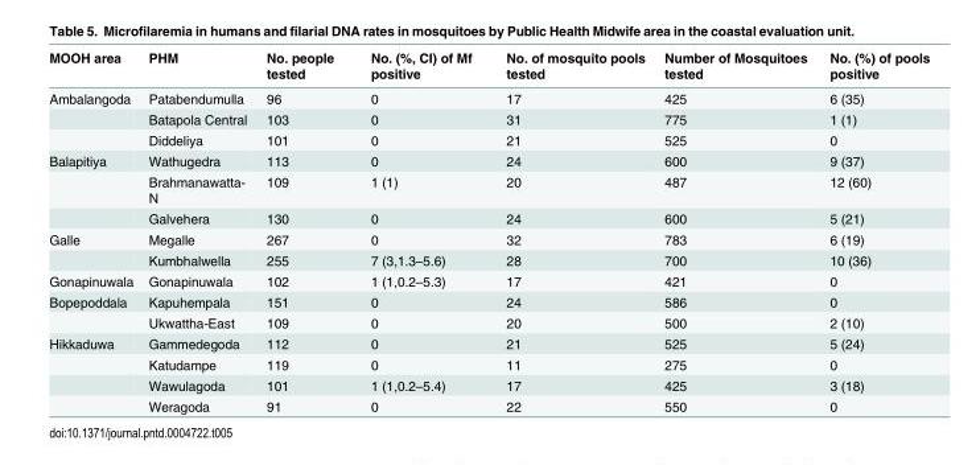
<table><thead><tr><td>MOOH area</td><td>PHM</td><td>No. people tested</td><td>No. (%, CI) of Mf positive</td><td>No. of mosquito pools tested</td><td>Number of Mosquitoes tested</td><td>No. (%) of pools positive</td></tr></thead><tbody><tr><td rowspan="3">Ambalangoda</td><td>Patabendumulla</td><td>96</td><td>0</td><td>17</td><td>425</td><td>6 (35)</td></tr><tr><td>Batapola Central</td><td>103</td><td>0</td><td>31</td><td>775</td><td>1 (1)</td></tr><tr><td>Diddeliya</td><td>101</td><td>0</td><td>21</td><td>525</td><td>0</td></tr><tr><td rowspan="3">Balapitiya</td><td>Wathugedra</td><td>113</td><td>0</td><td>24</td><td>600</td><td>9 (37)</td></tr><tr><td>Brahmanawatta- N</td><td>109</td><td>1 (1)</td><td>20</td><td>487</td><td>12 (60)</td></tr><tr><td>Galvehera</td><td>130</td><td>0</td><td>24</td><td>600</td><td>5 (21)</td></tr><tr><td rowspan="2">Galle</td><td>Megalle</td><td>267</td><td>0</td><td>32</td><td>783</td><td>6 (19)</td></tr><tr><td>Kumbhalwella</td><td>255</td><td>7 (3,1.3–5.6)</td><td>28</td><td>700</td><td>10 (36)</td></tr><tr><td>Gonapinuwala</td><td>Gonapinuwala</td><td>102</td><td>1 (1,0.2–5.3)</td><td>17</td><td>421</td><td>0</td></tr><tr><td rowspan="2">Bopepoddala</td><td>Kapuhempala</td><td>151</td><td>0</td><td>24</td><td>586</td><td>0</td></tr><tr><td>Ukwattha-East</td><td>109</td><td>0</td><td>20</td><td>500</td><td>2 (10)</td></tr><tr><td rowspan="4">Hikkaduwa</td><td>Gammedegoda</td><td>112</td><td>0</td><td>21</td><td>525</td><td>5 (24)</td></tr><tr><td>Katudampe</td><td>119</td><td>0</td><td>11</td><td>275</td><td>0</td></tr><tr><td>Wawulagoda</td><td>101</td><td>1 (1,0.2–5.4)</td><td>17</td><td>425</td><td>3 (18)</td></tr><tr><td>Weragoda</td><td>91</td><td>0</td><td>22</td><td>550</td><td>0</td></tr></tbody></table>